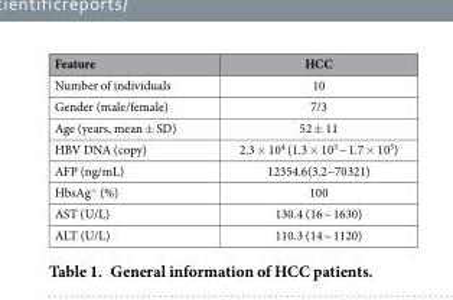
<table><thead><tr><td>Feature</td><td>HCC</td></tr></thead><tbody><tr><td>Number of individuals</td><td>10</td></tr><tr><td>Gender (male/female)</td><td>7/3</td></tr><tr><td>Age (years, mean ± SD)</td><td>52 ± 11</td></tr><tr><td>HBV DNA (copy)</td><td>2.3 × 10<sup>4</sup> (1.3 × 10<sup>3</sup> ~ 1.7 × 10<sup>5</sup>)</td></tr><tr><td>AFP (ng/mL)</td><td>12354.6(3.2~70321)</td></tr><tr><td>HbsAg<sup>+</sup> (%)</td><td>100</td></tr><tr><td>AST (U/L)</td><td>130.4 (16 ~ 1630)</td></tr><tr><td>ALT (U/L)</td><td>110.3 (14 ~ 1120)</td></tr></tbody></table>